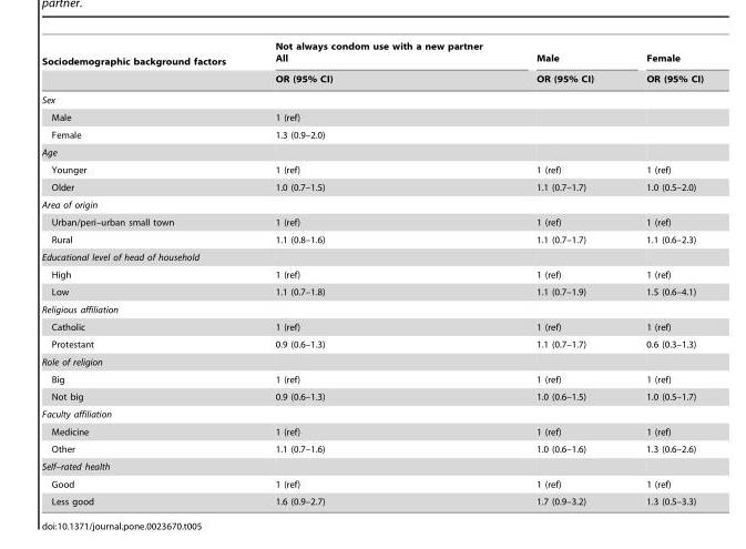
<table><thead><tr><td rowspan="2">Sociodemographic background factors</td><td rowspan="2">Not always condom use with a new partner All OR (95% CI)</td><td rowspan="2">Male OR (95% CI)</td><td rowspan="2">Female OR (95% CI)</td></tr><tr></tr></thead><tbody><tr><td colspan="4">Sex</td></tr><tr><td>Male</td><td>1 (ref)</td><td></td><td></td></tr><tr><td>Female</td><td>1.3 (0.9–2.0)</td><td></td><td></td></tr><tr><td colspan="4">Age</td></tr><tr><td>Younger</td><td>1 (ref)</td><td>1 (ref)</td><td>1 (ref)</td></tr><tr><td>Older</td><td>1.0 (0.7–1.5)</td><td>1.1 (0.7–1.7)</td><td>1.0 (0.5–2.0)</td></tr><tr><td colspan="4">Area of origin</td></tr><tr><td>Urban/peri–urban small town</td><td>1 (ref)</td><td>1 (ref)</td><td>1 (ref)</td></tr><tr><td>Rural</td><td>1.1 (0.8–1.6)</td><td>1.1 (0.7–1.7)</td><td>1.1 (0.6–2.3)</td></tr><tr><td colspan="4">Educational level of head of household</td></tr><tr><td>High</td><td>1 (ref)</td><td>1 (ref)</td><td>1 (ref)</td></tr><tr><td>Low</td><td>1.1 (0.7–1.8)</td><td>1.1 (0.7–1.9)</td><td>1.5 (0.6–4.1)</td></tr><tr><td colspan="4">Religious affiliation</td></tr><tr><td>Catholic</td><td>1 (ref)</td><td>1 (ref)</td><td>1 (ref)</td></tr><tr><td>Protestant</td><td>0.9 (0.6–1.3)</td><td>1.1 (0.7–1.7)</td><td>0.6 (0.3–1.3)</td></tr><tr><td colspan="4">Role of religion</td></tr><tr><td>Big</td><td>1 (ref)</td><td>1 (ref)</td><td>1 (ref)</td></tr><tr><td>Not big</td><td>0.9 (0.6–1.3)</td><td>1.0 (0.6–1.5)</td><td>1.0 (0.5–1.7)</td></tr><tr><td colspan="4">Faculty affiliation</td></tr><tr><td>Medicine</td><td>1 (ref)</td><td>1 (ref)</td><td>1 (ref)</td></tr><tr><td>Other</td><td>1.1 (0.7–1.6)</td><td>1.0 (0.6–1.6)</td><td>1.3 (0.6–2.6)</td></tr><tr><td colspan="4">Self–rated health</td></tr><tr><td>Good</td><td>1 (ref)</td><td>1 (ref)</td><td>1 (ref)</td></tr><tr><td>Less good</td><td>1.6 (0.9–2.7)</td><td>1.7 (0.9–3.2)</td><td>1.3 (0.5–3.3)</td></tr></tbody></table>